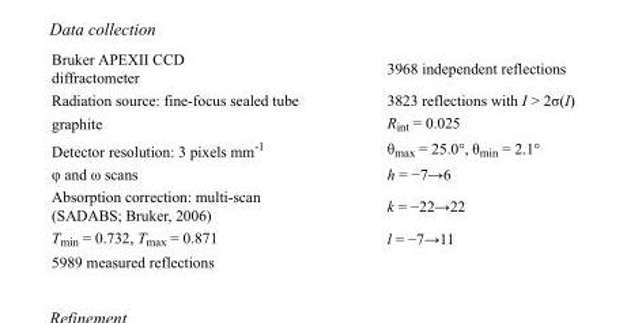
<table><tbody><tr><td>Bruker APEXII CCD diffractometer</td><td>3968 independent reflections</td></tr><tr><td>Radiation source: fine-focus sealed tube</td><td>3823 reflections with I &gt; 2σ(I)</td></tr><tr><td>graphite</td><td>R<sub>int</sub> = 0.025</td></tr><tr><td>Detector resolution: 3 pixels mm<sup>-1</sup></td><td>θ<sub>max</sub> = 25.0°, θ<sub>min</sub> = 2.1°</td></tr><tr><td>φ and ω scans</td><td>h = −7→6</td></tr><tr><td>Absorption correction: multi-scan (SADABS; Bruker, 2006)</td><td>k = −22→22</td></tr><tr><td>T<sub>min</sub> = 0.732, T<sub>max</sub> = 0.871</td><td>l = −7→11</td></tr><tr><td>5989 measured reflections</td><td></td></tr></tbody></table>